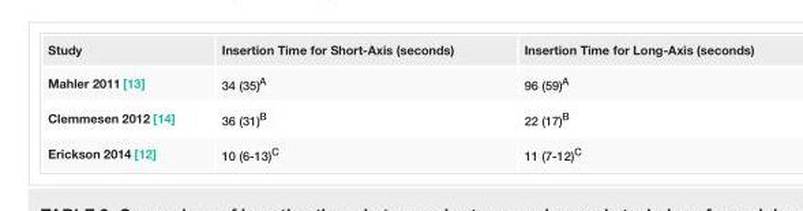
<table><tbody><tr><td>Study</td><td>Insertion Time for Short-Axis (seconds)</td><td>Insertion Time for Long-Axis (seconds)</td></tr><tr><td>Mahler 2011 [13]</td><td>34 (35)<sup>A</sup></td><td>96 (59)<sup>A</sup></td></tr><tr><td>Clemmesen 2012 [14]</td><td>36 (31)<sup>B</sup></td><td>22 (17)<sup>B</sup></td></tr><tr><td>Erickson 2014 [12]</td><td>10 (6-13)<sup>C</sup></td><td>11 (7-12)<sup>C</sup></td></tr></tbody></table>